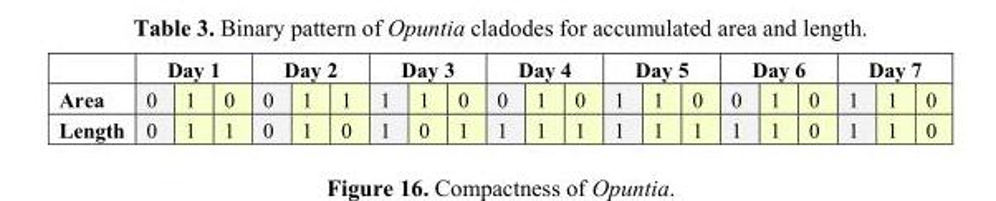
<table><thead><tr><td rowspan="2">Area</td><td colspan="3">Day 1</td><td colspan="3">Day 2</td><td colspan="3">Day 3</td><td colspan="3">Day 4</td><td colspan="3">Day 5</td><td colspan="3">Day 6</td><td colspan="3">Day 7</td></tr><tr><td>0</td><td>1</td><td>0</td><td>0</td><td>1</td><td>1</td><td>1</td><td>1</td><td>0</td><td>0</td><td>1</td><td>0</td><td>1</td><td>1</td><td>0</td><td>0</td><td>1</td><td>0</td><td>1</td><td>1</td><td>0</td></tr></thead><tbody><tr><td>Length</td><td>0</td><td>1</td><td>1</td><td>0</td><td>1</td><td>0</td><td>1</td><td>0</td><td>1</td><td>1</td><td>1</td><td>1</td><td>1</td><td>1</td><td>1</td><td>1</td><td>1</td><td>0</td><td>1</td><td>1</td><td>0</td></tr></tbody></table>